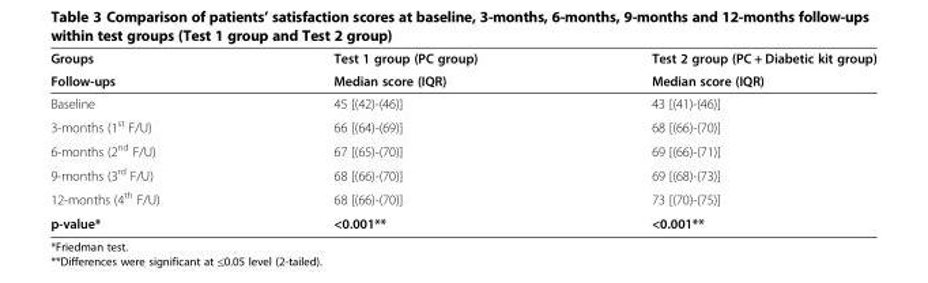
<table><thead><tr><td rowspan="2">Groups Follow-ups</td><td rowspan="2">Test 1 group (PC group) Median score (IQR)</td><td rowspan="2">Test 2 group (PC + Diabetic kit group) Median score (IQR)</td></tr><tr></tr></thead><tbody><tr><td>Baseline</td><td>45 [(42)-(46)]</td><td>43 [(41)-(46)]</td></tr><tr><td>3-months (1<sup>st</sup> F/U)</td><td>66 [(64)-(69)]</td><td>68 [(66)-(70)]</td></tr><tr><td>6-months (2<sup>nd</sup> F/U)</td><td>67 [(65)-(70)]</td><td>69 [(66)-(71)]</td></tr><tr><td>9-months (3<sup>rd</sup> F/U)</td><td>68 [(66)-(70)]</td><td>69 [(68)-(73)]</td></tr><tr><td>12-months (4<sup>th</sup> F/U)</td><td>68 [(66)-(70)]</td><td>73 [(70)-(75)]</td></tr><tr><td>p-value*</td><td>&lt;0.001**</td><td>&lt;0.001**</td></tr></tbody></table>